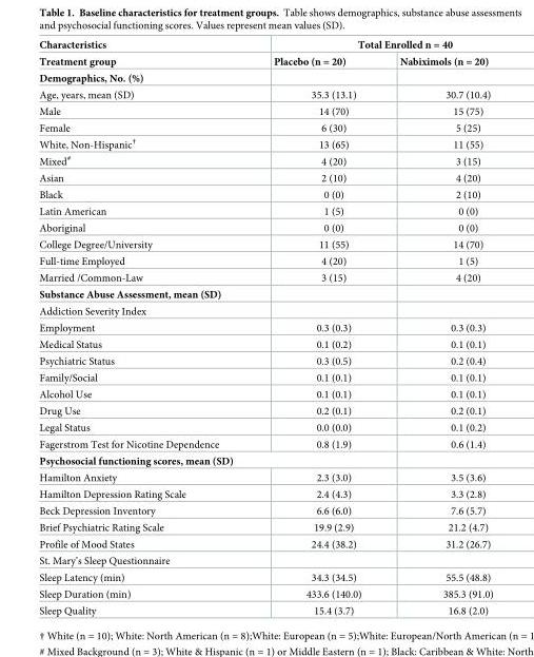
<table><thead><tr><td rowspan="2">Characteristics Treatment group</td><td colspan="2">Total Enrolled n = 40</td></tr><tr><td>Placebo (n = 20)</td><td>Nabiximols (n = 20)</td></tr></thead><tbody><tr><td colspan="3">Demographics, No. (%)</td></tr><tr><td>Age, years, mean (SD)</td><td>35.3 (13.1)</td><td>30.7 (10.4)</td></tr><tr><td>Male</td><td>14 (70)</td><td>15 (75)</td></tr><tr><td>Female</td><td>6 (30)</td><td>5 (25)</td></tr><tr><td>White, Non-Hispanic<sup>†</sup></td><td>13 (65)</td><td>11 (55)</td></tr><tr><td>Mixed<sup>#</sup></td><td>4 (20)</td><td>3 (15)</td></tr><tr><td>Asian</td><td>2 (10)</td><td>4 (20)</td></tr><tr><td>Black</td><td>0 (0)</td><td>2 (10)</td></tr><tr><td>Latin American</td><td>1 (5)</td><td>0 (0)</td></tr><tr><td>Aboriginal</td><td>0 (0)</td><td>0 (0)</td></tr><tr><td>College Degree/University</td><td>11 (55)</td><td>14 (70)</td></tr><tr><td>Full-time Employed</td><td>4 (20)</td><td>1 (5)</td></tr><tr><td>Married /Common-Law</td><td>3 (15)</td><td>4 (20)</td></tr><tr><td colspan="3">Substance Abuse Assessment, mean (SD)</td></tr><tr><td colspan="3">Addiction Severity Index</td></tr><tr><td>Employment</td><td>0.3 (0.3)</td><td>0.3 (0.3)</td></tr><tr><td>Medical Status</td><td>0.1 (0.2)</td><td>0.1 (0.1)</td></tr><tr><td>Psychiatric Status</td><td>0.3 (0.5)</td><td>0.2 (0.4)</td></tr><tr><td>Family/Social</td><td>0.1 (0.1)</td><td>0.1 (0.1)</td></tr><tr><td>Alcohol Use</td><td>0.1 (0.1)</td><td>0.1 (0.1)</td></tr><tr><td>Drug Use</td><td>0.2 (0.1)</td><td>0.2 (0.1)</td></tr><tr><td>Legal Status</td><td>0.0 (0.0)</td><td>0.1 (0.2)</td></tr><tr><td>Fagerstrom Test for Nicotine Dependence</td><td>0.8 (1.9)</td><td>0.6 (1.4)</td></tr><tr><td colspan="3">Psychosocial functioning scores, mean (SD)</td></tr><tr><td>Hamilton Anxiety</td><td>2.3 (3.0)</td><td>3.5 (3.6)</td></tr><tr><td>Hamilton Depression Rating Scale</td><td>2.4 (4.3)</td><td>3.3 (2.8)</td></tr><tr><td>Beck Depression Inventory</td><td>6.6 (6.0)</td><td>7.6 (5.7)</td></tr><tr><td>Brief Psychiatric Rating Scale</td><td>19.9 (2.9)</td><td>21.2 (4.7)</td></tr><tr><td>Profile of Mood States</td><td>24.4 (38.2)</td><td>31.2 (26.7)</td></tr><tr><td colspan="3">St. Mary’s Sleep Questionnaire</td></tr><tr><td>Sleep Latency (min)</td><td>34.3 (34.5)</td><td>55.5 (48.8)</td></tr><tr><td>Sleep Duration (min)</td><td>433.6 (140.0)</td><td>385.3 (91.0)</td></tr><tr><td>Sleep Quality</td><td>15.4 (3.7)</td><td>16.8 (2.0)</td></tr></tbody></table>